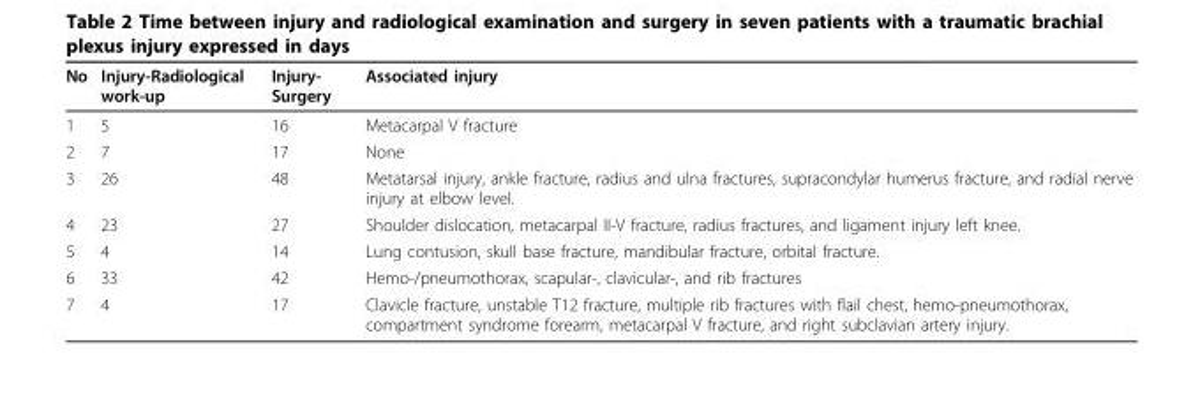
<table><thead><tr><td>No</td><td>Injury-Radiological work-up</td><td>Injury- Surgery</td><td>Associated injury</td></tr></thead><tbody><tr><td>1</td><td>5</td><td>16</td><td>Metacarpal V fracture</td></tr><tr><td>2</td><td>7</td><td>17</td><td>None</td></tr><tr><td>3</td><td>26</td><td>48</td><td>Metatarsal injury, ankle fracture, radius and ulna fractures, supracondylar humerus fracture, and radial nerve injury at elbow level.</td></tr><tr><td>4</td><td>23</td><td>27</td><td>Shoulder dislocation, metacarpal II-V fracture, radius fractures, and ligament injury left knee.</td></tr><tr><td>5</td><td>4</td><td>14</td><td>Lung contusion, skull base fracture, mandibular fracture, orbital fracture.</td></tr><tr><td>6</td><td>33</td><td>42</td><td>Hemo-/pneumothorax, scapular-, clavicular-, and rib fractures</td></tr><tr><td>7</td><td>4</td><td>17</td><td>Clavicle fracture, unstable T12 fracture, multiple rib fractures with flail chest, hemo-pneumothorax, compartment syndrome forearm, metacarpal V fracture, and right subclavian artery injury.</td></tr></tbody></table>